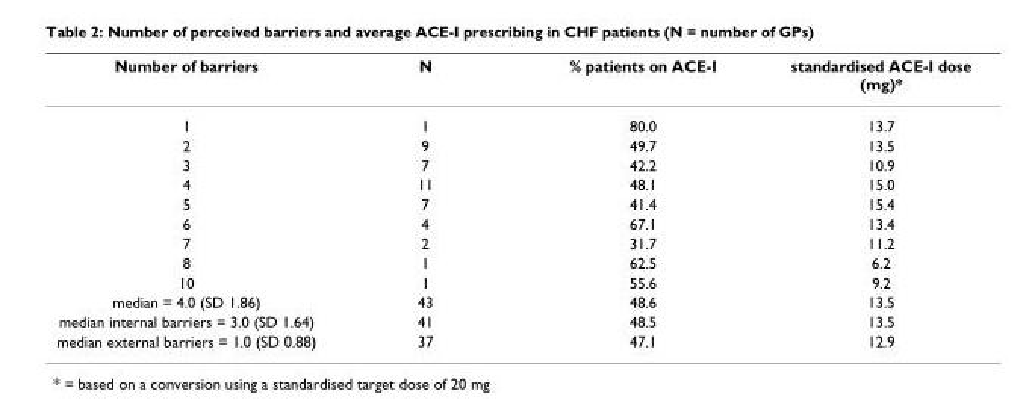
<table><thead><tr><td>Number of barriers</td><td>N</td><td>% patients on ACE-I</td><td>standardised ACE-I dose (mg)*</td></tr></thead><tbody><tr><td>1</td><td>1</td><td>80.0</td><td>13.7</td></tr><tr><td>2</td><td>9</td><td>49.7</td><td>13.5</td></tr><tr><td>3</td><td>7</td><td>42.2</td><td>10.9</td></tr><tr><td>4</td><td>11</td><td>48.1</td><td>15.0</td></tr><tr><td>5</td><td>7</td><td>41.4</td><td>15.4</td></tr><tr><td>6</td><td>4</td><td>67.1</td><td>13.4</td></tr><tr><td>7</td><td>2</td><td>31.7</td><td>11.2</td></tr><tr><td>8</td><td>1</td><td>62.5</td><td>6.2</td></tr><tr><td>10</td><td>1</td><td>55.6</td><td>9.2</td></tr><tr><td>median = 4.0 (SD 1.86)</td><td>43</td><td>48.6</td><td>13.5</td></tr><tr><td>median internal barriers = 3.0 (SD 1.64)</td><td>41</td><td>48.5</td><td>13.5</td></tr><tr><td>median external barriers = 1.0 (SD 0.88)</td><td>37</td><td>47.1</td><td>12.9</td></tr></tbody></table>